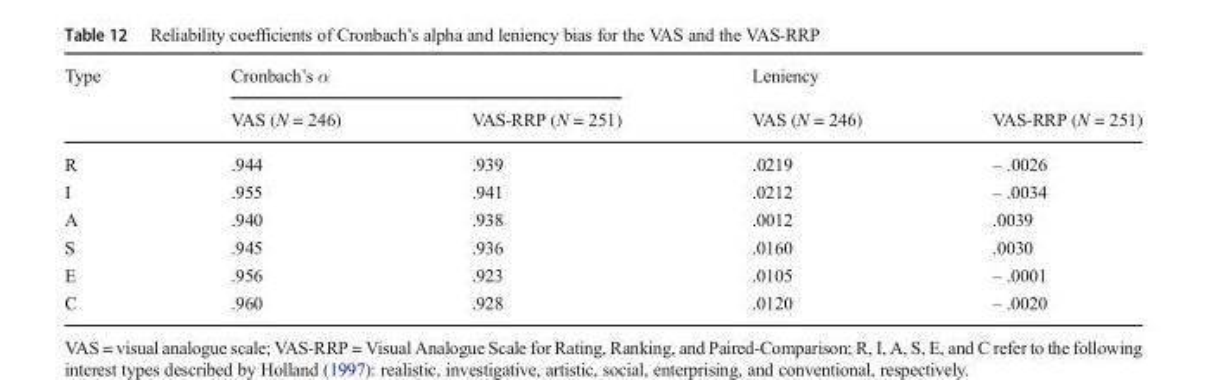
<table><thead><tr><td rowspan="2">Type</td><td colspan="2">Cronbach’s α</td><td rowspan="2">Leniency VAS (N = 246)</td><td rowspan="2">VAS-RRP (N = 251)</td></tr><tr><td>VAS (N = 246)</td><td>VAS-RRP (N = 251)</td></tr></thead><tbody><tr><td>R</td><td>.944</td><td>.939</td><td>.0219</td><td>– .0026</td></tr><tr><td>I</td><td>.955</td><td>.941</td><td>.0212</td><td>– .0034</td></tr><tr><td>A</td><td>.940</td><td>.938</td><td>.0012</td><td>.0039</td></tr><tr><td>S</td><td>.945</td><td>.936</td><td>.0160</td><td>.0030</td></tr><tr><td>E</td><td>.956</td><td>.923</td><td>.0105</td><td>– .0001</td></tr><tr><td>C</td><td>.960</td><td>.928</td><td>.0120</td><td>– .0020</td></tr></tbody></table>